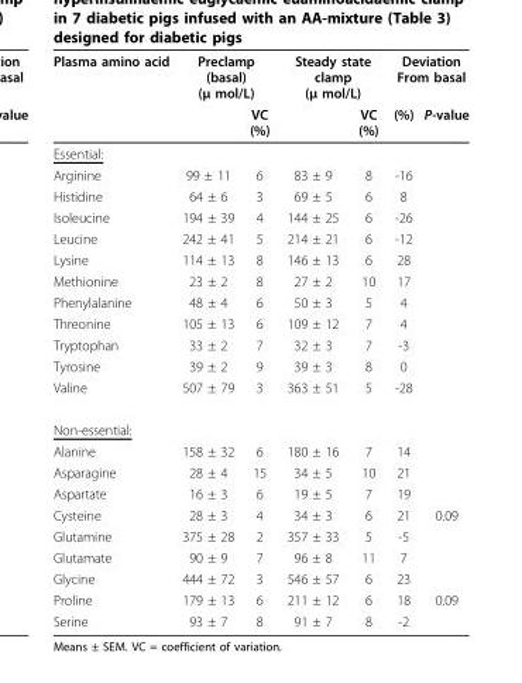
<table><thead><tr><td rowspan="2">Plasma amino acid</td><td colspan="2">Preclamp (basal) (μ mol/L)</td><td colspan="2">Steady state clamp (μ mol/L)</td><td colspan="2">Deviation From basal</td></tr><tr><td></td><td>VC (%)</td><td></td><td>VC (%)</td><td>(%)</td><td>P-value</td></tr></thead><tbody><tr><td colspan="7">Essential:</td></tr><tr><td>Arginine</td><td>99 ± 11</td><td>6</td><td>83 ± 9</td><td>8</td><td>-16</td><td></td></tr><tr><td>Histidine</td><td>64 ± 6</td><td>3</td><td>69 ± 5</td><td>6</td><td>8</td><td></td></tr><tr><td>Isoleucine</td><td>194 ± 39</td><td>4</td><td>144 ± 25</td><td>6</td><td>-26</td><td></td></tr><tr><td>Leucine</td><td>242 ± 41</td><td>5</td><td>214 ± 21</td><td>6</td><td>-12</td><td></td></tr><tr><td>Lysine</td><td>114 ± 13</td><td>8</td><td>146 ± 13</td><td>6</td><td>28</td><td></td></tr><tr><td>Methionine</td><td>23 ± 2</td><td>8</td><td>27 ± 2</td><td>10</td><td>17</td><td></td></tr><tr><td>Phenylalanine</td><td>48 ± 4</td><td>6</td><td>50 ± 3</td><td>5</td><td>4</td><td></td></tr><tr><td>Threonine</td><td>105 ± 13</td><td>6</td><td>109 ± 12</td><td>7</td><td>4</td><td></td></tr><tr><td>Tryptophan</td><td>33 ± 2</td><td>7</td><td>32 ± 3</td><td>7</td><td>-3</td><td></td></tr><tr><td>Tyrosine</td><td>39 ± 2</td><td>9</td><td>39 ± 3</td><td>8</td><td>0</td><td></td></tr><tr><td>Valine</td><td>507 ± 79</td><td>3</td><td>363 ± 51</td><td>5</td><td>-28</td><td></td></tr><tr><td colspan="7">Non-essential:</td></tr><tr><td>Alanine</td><td>158 ± 32</td><td>6</td><td>180 ± 16</td><td>7</td><td>14</td><td></td></tr><tr><td>Asparagine</td><td>28 ± 4</td><td>15</td><td>34 ± 5</td><td>10</td><td>21</td><td></td></tr><tr><td>Aspartate</td><td>16 ± 3</td><td>6</td><td>19 ± 5</td><td>7</td><td>19</td><td></td></tr><tr><td>Cysteine</td><td>28 ± 3</td><td>4</td><td>34 ± 3</td><td>6</td><td>21</td><td>0.09</td></tr><tr><td>Glutamine</td><td>375 ± 28</td><td>2</td><td>357 ± 33</td><td>5</td><td>-5</td><td></td></tr><tr><td>Glutamate</td><td>90 ± 9</td><td>7</td><td>96 ± 8</td><td>11</td><td>7</td><td></td></tr><tr><td>Glycine</td><td>444 ± 72</td><td>3</td><td>546 ± 57</td><td>6</td><td>23</td><td></td></tr><tr><td>Proline</td><td>179 ± 13</td><td>6</td><td>211 ± 12</td><td>6</td><td>18</td><td>0.09</td></tr><tr><td>Serine</td><td>93 ± 7</td><td>8</td><td>91 ± 7</td><td>8</td><td>-2</td><td></td></tr></tbody></table>